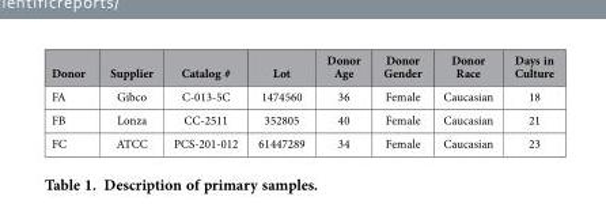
<table><thead><tr><td>Donor</td><td>Supplier</td><td>Catalog #</td><td>Lot</td><td>Donor Age</td><td>Donor Gender</td><td>Donor Race</td><td>Days in Culture</td></tr></thead><tbody><tr><td>FA</td><td>Gibco</td><td>C-013-5C</td><td>1474560</td><td>36</td><td>Female</td><td>Caucasian</td><td>18</td></tr><tr><td>FB</td><td>Lonza</td><td>CC-2511</td><td>352805</td><td>40</td><td>Female</td><td>Caucasian</td><td>21</td></tr><tr><td>FC</td><td>ATCC</td><td>PCS-201-012</td><td>61447289</td><td>34</td><td>Female</td><td>Caucasian</td><td>23</td></tr></tbody></table>